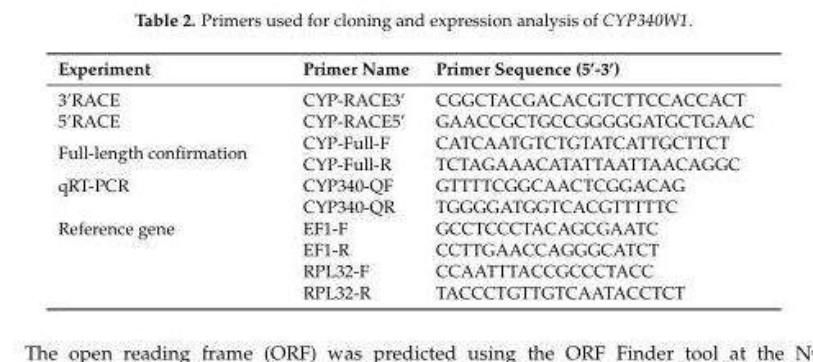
<table><thead><tr><td>Experiment</td><td>Primer Name</td><td>Primer Sequence (5’-3’)</td></tr></thead><tbody><tr><td>3’RACE</td><td>CYP-RACE3’</td><td>CGGCTACGACACGTCTTCCACCACT</td></tr><tr><td>5’RACE</td><td>CYP-RACE5’</td><td>GAACCGCTGCCGGGGGATGCTGAAC</td></tr><tr><td rowspan="2">Full-length confirmation</td><td>CYP-Full-F</td><td>CATCAATGTCTGTATCATTGCTTCT</td></tr><tr><td>CYP-Full-R</td><td>TCTAGAAACATATTAATTAACAGGC</td></tr><tr><td rowspan="2">qRT-PCR</td><td>CYP340-QF</td><td>GTTTTCGGCAACTCGGACAG</td></tr><tr><td>CYP340-QR</td><td>TGGGGATGGTCACGTTTTTC</td></tr><tr><td rowspan="4">Reference gene</td><td>EF1-F</td><td>GCCTCCCTACAGCGAATC</td></tr><tr><td>EF1-R</td><td>CCTTGAACCAGGGCATCT</td></tr><tr><td>RPL32-F</td><td>CCAATTTACCGCCCTACC</td></tr><tr><td>RPL32-R</td><td>TACCCTGTTGTCAATACCTCT</td></tr></tbody></table>